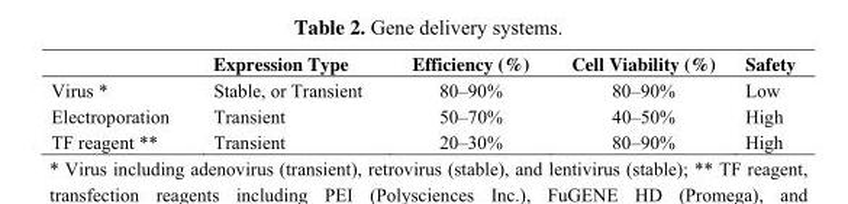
<table><thead><tr><td></td><td>Expression Type</td><td>Efficiency (%)</td><td>Cell Viability (%)</td><td>Safety</td></tr></thead><tbody><tr><td>Virus *</td><td>Stable, or Transient</td><td>80–90%</td><td>80–90%</td><td>Low</td></tr><tr><td>Electroporation</td><td>Transient</td><td>50–70%</td><td>40–50%</td><td>High</td></tr><tr><td>TF reagent **</td><td>Transient</td><td>20–30%</td><td>80–90%</td><td>High</td></tr></tbody></table>